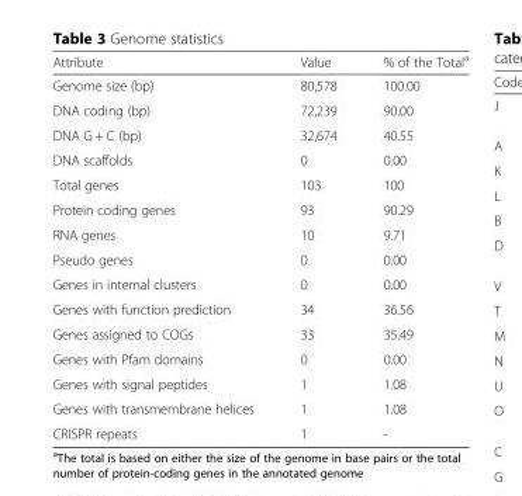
<table><thead><tr><td>Attribute</td><td>Value</td><td>% of the Total<sup>a</sup></td></tr></thead><tbody><tr><td>Genome size (bp)</td><td>80,578</td><td>100.00</td></tr><tr><td>DNA coding (bp)</td><td>72,239</td><td>90.00</td></tr><tr><td>DNA G + C (bp)</td><td>32,674</td><td>40.55</td></tr><tr><td>DNA scaffolds</td><td>0</td><td>0.00</td></tr><tr><td>Total genes</td><td>103</td><td>100</td></tr><tr><td>Protein coding genes</td><td>93</td><td>90.29</td></tr><tr><td>RNA genes</td><td>10</td><td>9.71</td></tr><tr><td>Pseudo genes</td><td>0</td><td>0.00</td></tr><tr><td>Genes in internal clusters</td><td>0</td><td>0.00</td></tr><tr><td>Genes with function prediction</td><td>34</td><td>36.56</td></tr><tr><td>Genes assigned to COGs</td><td>33</td><td>35.49</td></tr><tr><td>Genes with Pfam domains</td><td>0</td><td>0.00</td></tr><tr><td>Genes with signal peptides</td><td>1</td><td>1.08</td></tr><tr><td>Genes with transmembrane helices</td><td>1</td><td>1.08</td></tr><tr><td>CRISPR repeats</td><td>1</td><td>-</td></tr></tbody></table>